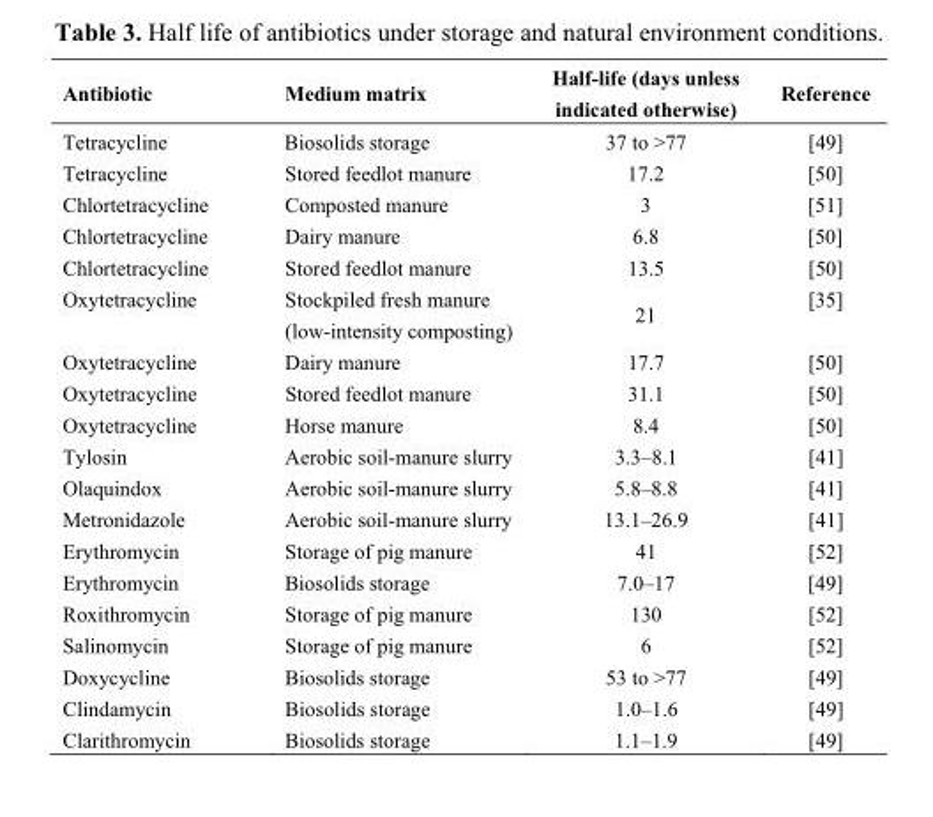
<table><thead><tr><td>Antibiotic</td><td>Medium matrix</td><td>Half-life (days unless indicated otherwise)</td><td>Reference</td></tr></thead><tbody><tr><td>Tetracycline</td><td>Biosolids storage</td><td>37 to &gt;77</td><td>[49]</td></tr><tr><td>Tetracycline</td><td>Stored feedlot manure</td><td>17.2</td><td>[50]</td></tr><tr><td>Chlortetracycline</td><td>Composted manure</td><td>3</td><td>[51]</td></tr><tr><td>Chlortetracycline</td><td>Dairy manure</td><td>6.8</td><td>[50]</td></tr><tr><td>Chlortetracycline</td><td>Stored feedlot manure</td><td>13.5</td><td>[50]</td></tr><tr><td>Oxytetracycline</td><td>Stockpiled fresh manure (low-intensity composting)</td><td>21</td><td>[35]</td></tr><tr><td>Oxytetracycline</td><td>Dairy manure</td><td>17.7</td><td>[50]</td></tr><tr><td>Oxytetracycline</td><td>Stored feedlot manure</td><td>31.1</td><td>[50]</td></tr><tr><td>Oxytetracycline</td><td>Horse manure</td><td>8.4</td><td>[50]</td></tr><tr><td>Tylosin</td><td>Aerobic soil-manure slurry</td><td>3.3–8.1</td><td>[41]</td></tr><tr><td>Olaquindox</td><td>Aerobic soil-manure slurry</td><td>5.8–8.8</td><td>[41]</td></tr><tr><td>Metronidazole</td><td>Aerobic soil-manure slurry</td><td>13.1–26.9</td><td>[41]</td></tr><tr><td>Erythromycin</td><td>Storage of pig manure</td><td>41</td><td>[52]</td></tr><tr><td>Erythromycin</td><td>Biosolids storage</td><td>7.0–17</td><td>[49]</td></tr><tr><td>Roxithromycin</td><td>Storage of pig manure</td><td>130</td><td>[52]</td></tr><tr><td>Salinomycin</td><td>Storage of pig manure</td><td>6</td><td>[52]</td></tr><tr><td>Doxycycline</td><td>Biosolids storage</td><td>53 to &gt;77</td><td>[49]</td></tr><tr><td>Clindamycin</td><td>Biosolids storage</td><td>1.0–1.6</td><td>[49]</td></tr><tr><td>Clarithromycin</td><td>Biosolids storage</td><td>1.1–1.9</td><td>[49]</td></tr></tbody></table>